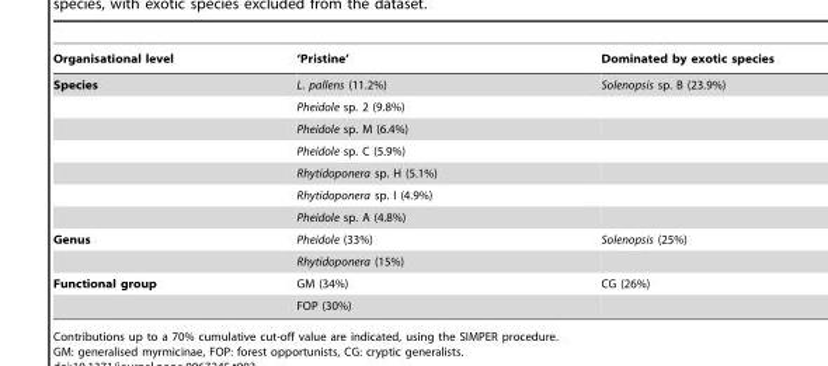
<table><thead><tr><td>Organisational level</td><td>‘Pristine’</td><td>Dominated by exotic species</td></tr></thead><tbody><tr><td rowspan="7">Species</td><td>L. pallens (11.2%)</td><td>Solenopsis sp. B (23.9%)</td></tr><tr><td>Pheidole sp. 2 (9.8%)</td><td></td></tr><tr><td>Pheidole sp. M (6.4%)</td><td></td></tr><tr><td>Pheidole sp. C (5.9%)</td><td></td></tr><tr><td>Rhytidoponera sp. H (5.1%)</td><td></td></tr><tr><td>Rhytidoponera sp. I (4.9%)</td><td></td></tr><tr><td>Pheidole sp. A (4.8%)</td><td></td></tr><tr><td rowspan="2">Genus</td><td>Pheidole (33%)</td><td>Solenopsis (25%)</td></tr><tr><td>Rhytidoponera (15%)</td><td></td></tr><tr><td rowspan="2">Functional group</td><td>GM (34%)</td><td>CG (26%)</td></tr><tr><td>FOP (30%)</td><td></td></tr></tbody></table>